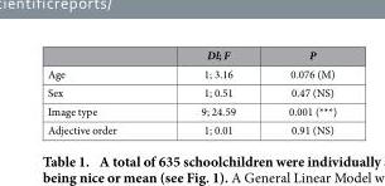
<table><thead><tr><td></td><td>Dl; F</td><td>P</td></tr></thead><tbody><tr><td>Age</td><td>1; 3.16</td><td>0.076 (M)</td></tr><tr><td>Sex</td><td>1; 0.51</td><td>0.47 (NS)</td></tr><tr><td>Image type</td><td>9; 24.59</td><td>0.001 (***)</td></tr><tr><td>Adjective order</td><td>1; 0.01</td><td>0.91 (NS)</td></tr></tbody></table>